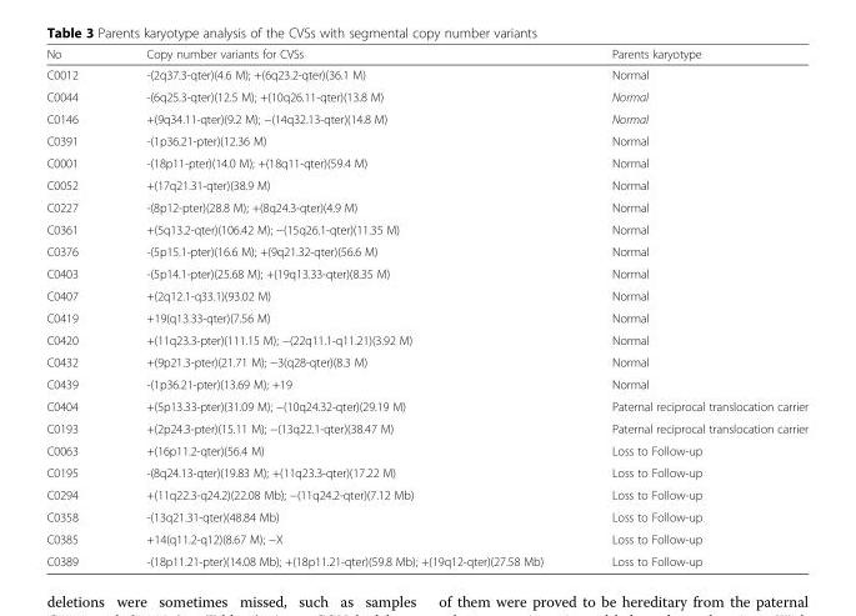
<table><thead><tr><td>No</td><td>Copy number variants for CVSs</td><td>Parents karyotype</td></tr></thead><tbody><tr><td>C0012</td><td>-(2q37.3-qter)(4.6 M); +(6q23.2-qter)(36.1 M)</td><td>Normal</td></tr><tr><td>C0044</td><td>-(6q25.3-qter)(12.5 M); +(10q26.11-qter)(13.8 M)</td><td>Normal</td></tr><tr><td>C0146</td><td>+(9q34.11-qter)(9.2 M); −(14q32.13-qter)(14.8 M)</td><td>Normal</td></tr><tr><td>C0391</td><td>-(1p36.21-pter)(12.36 M)</td><td>Normal</td></tr><tr><td>C0001</td><td>-(18p11-pter)(14.0 M); +(18q11-qter)(59.4 M)</td><td>Normal</td></tr><tr><td>C0052</td><td>+(17q21.31-qter)(38.9 M)</td><td>Normal</td></tr><tr><td>C0227</td><td>-(8p12-pter)(28.8 M); +(8q24.3-qter)(4.9 M)</td><td>Normal</td></tr><tr><td>C0361</td><td>+(5q13.2-qter)(106.42 M); −(15q26.1-qter)(11.35 M)</td><td>Normal</td></tr><tr><td>C0376</td><td>-(5p15.1-pter)(16.6 M); +(9q21.32-qter)(56.6 M)</td><td>Normal</td></tr><tr><td>C0403</td><td>-(5p14.1-pter)(25.68 M); +(19q13.33-qter)(8.35 M)</td><td>Normal</td></tr><tr><td>C0407</td><td>+(2q12.1-q33.1)(93.02 M)</td><td>Normal</td></tr><tr><td>C0419</td><td>+19(q13.33-qter)(7.56 M)</td><td>Normal</td></tr><tr><td>C0420</td><td>+(11q23.3-pter)(111.15 M); −(22q11.1-q11.21)(3.92 M)</td><td>Normal</td></tr><tr><td>C0432</td><td>+(9p21.3-pter)(21.71 M); −3(q28-qter)(8.3 M)</td><td>Normal</td></tr><tr><td>C0439</td><td>-(1p36.21-pter)(13.69 M); +19</td><td>Normal</td></tr><tr><td>C0404</td><td>+(5p13.33-pter)(31.09 M); −(10q24.32-qter)(29.19 M)</td><td>Paternal reciprocal translocation carrier</td></tr><tr><td>C0193</td><td>+(2p24.3-pter)(15.11 M); −(13q22.1-qter)(38.47 M)</td><td>Paternal reciprocal translocation carrier</td></tr><tr><td>C0063</td><td>+(16p11.2-qter)(56.4 M)</td><td>Loss to Follow-up</td></tr><tr><td>C0195</td><td>-(8q24.13-qter)(19.83 M); +(11q23.3-qter)(17.22 M)</td><td>Loss to Follow-up</td></tr><tr><td>C0294</td><td>+(11q22.3-q24.2)(22.08 Mb); −(11q24.2-qter)(7.12 Mb)</td><td>Loss to Follow-up</td></tr><tr><td>C0358</td><td>-(13q21.31-qter)(48.84 Mb)</td><td>Loss to Follow-up</td></tr><tr><td>C0385</td><td>+14(q11.2-q12)(8.67 M); −X</td><td>Loss to Follow-up</td></tr><tr><td>C0389</td><td>-(18p11.21-pter)(14.08 Mb); +(18p11.21-qter)(59.8 Mb); +(19q12-qter)(27.58 Mb)</td><td>Loss to Follow-up</td></tr></tbody></table>